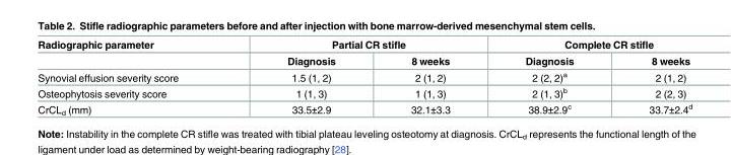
<table><thead><tr><td rowspan="2">Radiographic parameter</td><td colspan="2">Partial CR stifle</td><td colspan="2">Complete CR stifle</td></tr><tr><td>Diagnosis</td><td>8 weeks</td><td>Diagnosis</td><td>8 weeks</td></tr></thead><tbody><tr><td>Synovial effusion severity score</td><td>1.5 (1, 2)</td><td>2 (1, 2)</td><td>2 (2, 2)<sup>a</sup></td><td>2 (1, 2)</td></tr><tr><td>Osteophytosis severity score</td><td>1 (1, 3)</td><td>1 (1, 3)</td><td>2 (1, 3)<sup>b</sup></td><td>2 (2, 3)</td></tr><tr><td>CrCL<sub>d</sub> (mm)</td><td>33.5±2.9</td><td>32.1±3.3</td><td>38.9±2.9<sup>c</sup></td><td>33.7±2.4<sup>d</sup></td></tr></tbody></table>